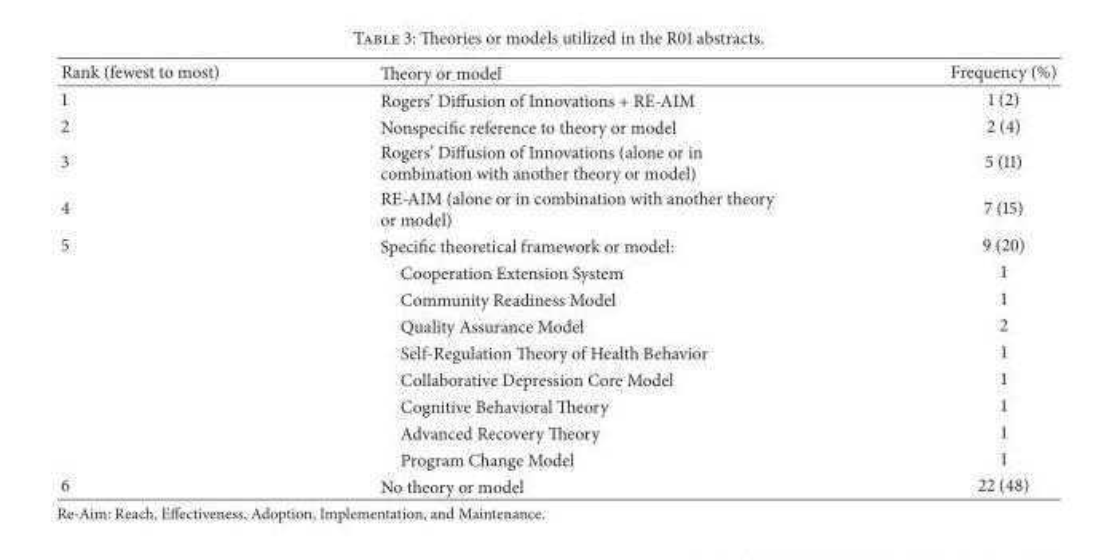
<table><thead><tr><td>Rank (fewest to most)</td><td>Theory or model</td><td>Frequency (%)</td></tr></thead><tbody><tr><td>1</td><td>Rogers’ Diffusion of Innovations + RE-AIM</td><td>1 (2)</td></tr><tr><td>2</td><td>Nonspecific reference to theory or model</td><td>2 (4)</td></tr><tr><td>3</td><td>Rogers’ Diffusion of Innovations (alone or in combination with another theory or model)</td><td>5 (11)</td></tr><tr><td>4</td><td>RE-AIM (alone or in combination with another theory or model)</td><td>7 (15)</td></tr><tr><td rowspan="9">5</td><td>Specific theoretical framework or model:</td><td>9 (20)</td></tr><tr><td>Cooperation Extension System</td><td>1</td></tr><tr><td>Community Readiness Model</td><td>1</td></tr><tr><td>Quality Assurance Model</td><td>2</td></tr><tr><td>Self-Regulation Theory of Health Behavior</td><td>1</td></tr><tr><td>Collaborative Depression Core Model</td><td>1</td></tr><tr><td>Cognitive Behavioral Theory</td><td>1</td></tr><tr><td>Advanced Recovery Theory</td><td>1</td></tr><tr><td>Program Change Model</td><td>1</td></tr><tr><td>6</td><td>No theory or model</td><td>22 (48)</td></tr></tbody></table>